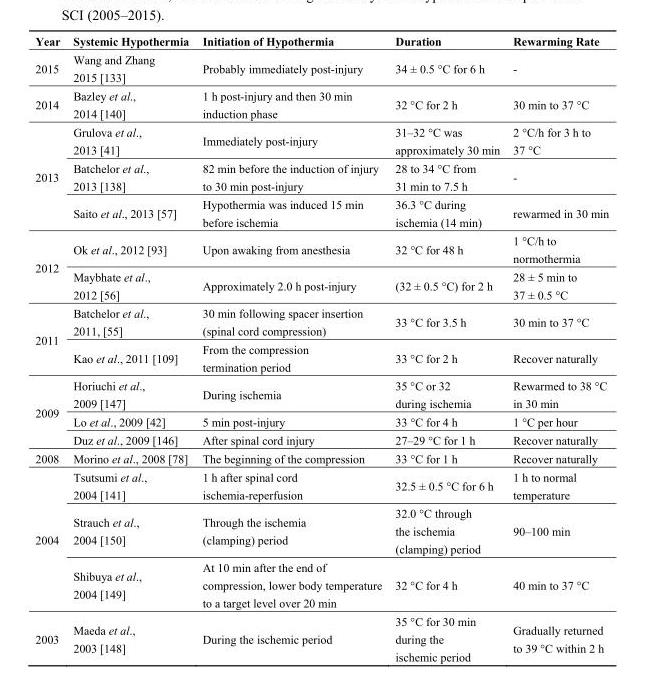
<table><thead><tr><td>Year</td><td>Systemic Hypothermia</td><td>Initiation of Hypothermia</td><td>Duration</td><td>Rewarming Rate</td></tr></thead><tbody><tr><td>2015</td><td>Wang and Zhang 2015 [133]</td><td>Probably immediately post-injury</td><td>34 ± 0.5 °C for 6 h</td><td>-</td></tr><tr><td>2014</td><td>Bazley et al., 2014 [140]</td><td>1 h post-injury and then 30 min induction phase</td><td>32 °C for 2 h</td><td>30 min to 37 °C</td></tr><tr><td rowspan="3">2013</td><td>Grulova et al., 2013 [41]</td><td>Immediately post-injury</td><td>31–32 °C was approximately 30 min</td><td>2 °C/h for 3 h to 37 °C</td></tr><tr><td>Batchelor et al., 2013 [138]</td><td>82 min before the induction of injury to 30 min post-injury</td><td>28 to 34 °C from 31 min to 7.5 h</td><td>-</td></tr><tr><td>Saito et al., 2013 [57]</td><td>Hypothermia was induced 15 min before ischemia</td><td>36.3 °C during ischemia (14 min)</td><td>rewarmed in 30 min</td></tr><tr><td rowspan="2">2012</td><td>Ok et al., 2012 [93]</td><td>Upon awaking from anesthesia</td><td>32 °C for 48 h</td><td>1 °C/h to normothermia</td></tr><tr><td>Maybhate et al., 2012 [56]</td><td>Approximately 2.0 h post-injury</td><td>(32 ± 0.5 °C) for 2 h</td><td>28 ± 5 min to 37 ± 0.5 °C</td></tr><tr><td rowspan="2">2011</td><td>Batchelor et al., 2011, [55]</td><td>30 min following spacer insertion (spinal cord compression)</td><td>33 °C for 3.5 h</td><td>30 min to 37 °C</td></tr><tr><td>Kao et al., 2011 [109]</td><td>From the compression termination period</td><td>33 °C for 2 h</td><td>Recover naturally</td></tr><tr><td rowspan="3">2009</td><td>Horiuchi et al., 2009 [147]</td><td>During ischemia</td><td>35 °C or 32 during ischemia</td><td>Rewarmed to 38 °C in 30 min</td></tr><tr><td>Lo et al., 2009 [42]</td><td>5 min post-injury</td><td>33 °C for 4 h</td><td>1 °C per hour</td></tr><tr><td>Duz et al., 2009 [146]</td><td>After spinal cord injury</td><td>27–29 °C for 1 h</td><td>Recover naturally</td></tr><tr><td>2008</td><td>Morino et al., 2008 [78]</td><td>The beginning of the compression</td><td>33 °C for 1 h</td><td>Recover naturally</td></tr><tr><td rowspan="3">2004</td><td>Tsutsumi et al., 2004 [141]</td><td>1 h after spinal cord ischemia-reperfusion</td><td>32.5 ± 0.5 °C for 6 h</td><td>1 h to normal temperature</td></tr><tr><td>Strauch et al., 2004 [150]</td><td>Through the ischemia (clamping) period</td><td>32.0 °C through the ischemia (clamping) period</td><td>90–100 min</td></tr><tr><td>Shibuya et al., 2004 [149]</td><td>At 10 min after the end of compression, lower body temperature to a target level over 20 min</td><td>32 °C for 4 h</td><td>40 min to 37 °C</td></tr><tr><td>2003</td><td>Maeda et al., 2003 [148]</td><td>During the ischemic period</td><td>35 °C for 30 min during the ischemic period</td><td>Gradually returned to 39 °C within 2 h</td></tr></tbody></table>